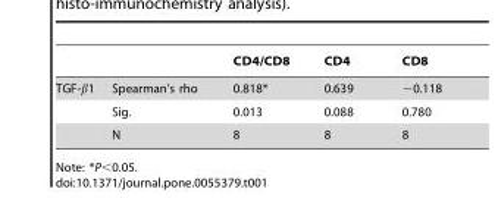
<table><thead><tr><td></td><td></td><td>CD4/CD8</td><td>CD4</td><td>CD8</td></tr></thead><tbody><tr><td rowspan="3">TGF-β1</td><td>Spearman’s rho</td><td>0.818*</td><td>0.639</td><td>−0.118</td></tr><tr><td>Sig.</td><td>0.013</td><td>0.088</td><td>0.780</td></tr><tr><td>N</td><td>8</td><td>8</td><td>8</td></tr></tbody></table>